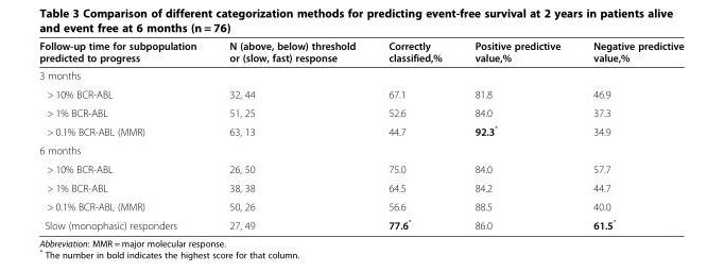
<table><thead><tr><td>Follow-up time for subpopulation predicted to progress</td><td>N (above, below) threshold or (slow, fast) response</td><td>Correctly classified,%</td><td>Positive predictive value,%</td><td>Negative predictive value,%</td></tr></thead><tbody><tr><td colspan="5">3 months</td></tr><tr><td>&gt; 10% BCR-ABL</td><td>32, 44</td><td>67.1</td><td>81.8</td><td>46.9</td></tr><tr><td>&gt; 1% BCR-ABL</td><td>51, 25</td><td>52.6</td><td>84.0</td><td>37.3</td></tr><tr><td>&gt; 0.1% BCR-ABL (MMR)</td><td>63, 13</td><td>44.7</td><td>92.3*</td><td>34.9</td></tr><tr><td colspan="5">6 months</td></tr><tr><td>&gt; 10% BCR-ABL</td><td>26, 50</td><td>75.0</td><td>84.0</td><td>57.7</td></tr><tr><td>&gt; 1% BCR-ABL</td><td>38, 38</td><td>64.5</td><td>84.2</td><td>44.7</td></tr><tr><td>&gt; 0.1% BCR-ABL (MMR)</td><td>50, 26</td><td>56.6</td><td>88.5</td><td>40.0</td></tr><tr><td>Slow (monophasic) responders</td><td>27, 49</td><td>77.6*</td><td>86.0</td><td>61.5*</td></tr></tbody></table>